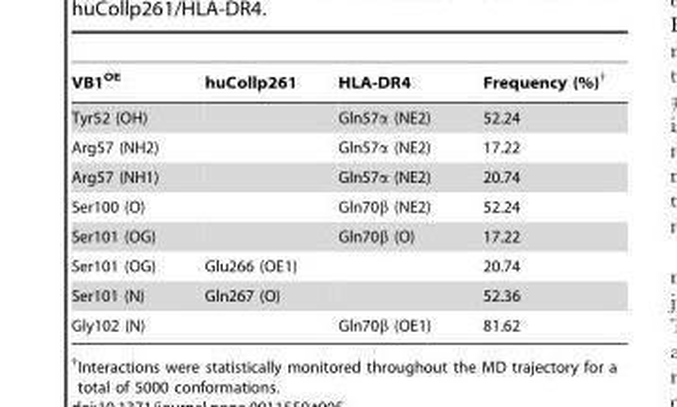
<table><thead><tr><td>VB1<sup>OE</sup></td><td>huCollp261</td><td>HLA-DR4</td><td>Frequency (%)†</td></tr></thead><tbody><tr><td>Tyr52 (OH)</td><td></td><td>Gln57α (NE2)</td><td>52.24</td></tr><tr><td>Arg57 (NH2)</td><td></td><td>Gln57α (NE2)</td><td>17.22</td></tr><tr><td>Arg57 (NH1)</td><td></td><td>Gln57α (NE2)</td><td>20.74</td></tr><tr><td>Ser100 (O)</td><td></td><td>Gln70β (NE2)</td><td>52.24</td></tr><tr><td>Ser101 (OG)</td><td></td><td>Gln70β (O)</td><td>17.22</td></tr><tr><td>Ser101 (OG)</td><td>Glu266 (OE1)</td><td></td><td>20.74</td></tr><tr><td>Ser101 (N)</td><td>Gln267 (O)</td><td></td><td>52.36</td></tr><tr><td>Gly102 (N)</td><td></td><td>Gln70β (OE1)</td><td>81.62</td></tr></tbody></table>